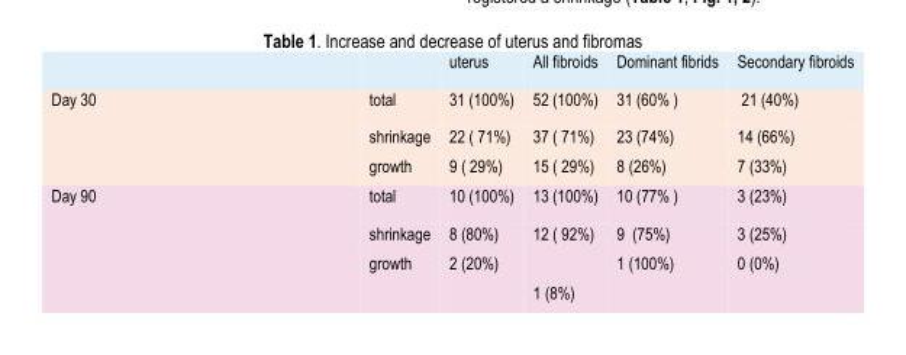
<table><thead><tr><td rowspan="7">Day 30 Day 90</td><td rowspan="7">total shrinkage growth total shrinkage growth</td><td rowspan="7">uterus 31 (100%) 22 ( 71%) 9 ( 29%) 10 (100%) 8 (80%) 2 (20%)</td><td rowspan="7">All fibroids 52 (100%) 37 ( 71%) 15 ( 29%) 13 (100%) 12 ( 92%) 1 (8%)</td><td rowspan="7">Dominant fibrids 31 (60% ) 23 (74%) 8 (26%) 10 (77% ) 9 (75%) 1 (100%)</td><td rowspan="7">Secondary fibroids 21 (40%) 14 (66%) 7 (33%) 3 (23%) 3 (25%) 0 (0%)</td></tr><tr></tr><tr></tr><tr></tr><tr></tr><tr></tr><tr></tr></thead><tbody></tbody></table>